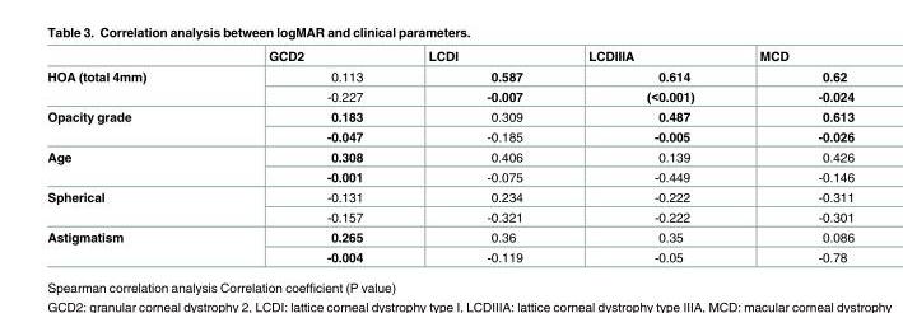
<table><thead><tr><td></td><td>GCD2</td><td>LCDI</td><td>LCDIIIA</td><td>MCD</td></tr></thead><tbody><tr><td rowspan="2">HOA (total 4mm)</td><td>0.113</td><td>0.587</td><td>0.614</td><td>0.62</td></tr><tr><td>-0.227</td><td>-0.007</td><td>(&lt;0.001)</td><td>-0.024</td></tr><tr><td rowspan="2">Opacity grade</td><td>0.183</td><td>0.309</td><td>0.487</td><td>0.613</td></tr><tr><td>-0.047</td><td>-0.185</td><td>-0.005</td><td>-0.026</td></tr><tr><td rowspan="2">Age</td><td>0.308</td><td>0.406</td><td>0.139</td><td>0.426</td></tr><tr><td>-0.001</td><td>-0.075</td><td>-0.449</td><td>-0.146</td></tr><tr><td rowspan="2">Spherical</td><td>-0.131</td><td>0.234</td><td>-0.222</td><td>-0.311</td></tr><tr><td>-0.157</td><td>-0.321</td><td>-0.222</td><td>-0.301</td></tr><tr><td rowspan="2">Astigmatism</td><td>0.265</td><td>0.36</td><td>0.35</td><td>0.086</td></tr><tr><td>-0.004</td><td>-0.119</td><td>-0.05</td><td>-0.78</td></tr></tbody></table>